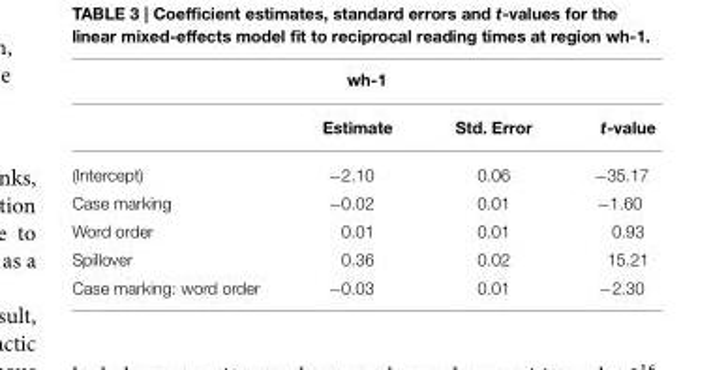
<table><thead><tr><td colspan="4">wh-1</td></tr><tr><td></td><td>Estimate</td><td>Std. Error</td><td>t-value</td></tr></thead><tbody><tr><td>(Intercept)</td><td>−2.10</td><td>0.06</td><td>−35.17</td></tr><tr><td>Case marking</td><td>−0.02</td><td>0.01</td><td>−1.60</td></tr><tr><td>Word order</td><td>0.01</td><td>0.01</td><td>0.93</td></tr><tr><td>Spillover</td><td>0.36</td><td>0.02</td><td>15.21</td></tr><tr><td>Case marking: word order</td><td>−0.03</td><td>0.01</td><td>−2.30</td></tr></tbody></table>